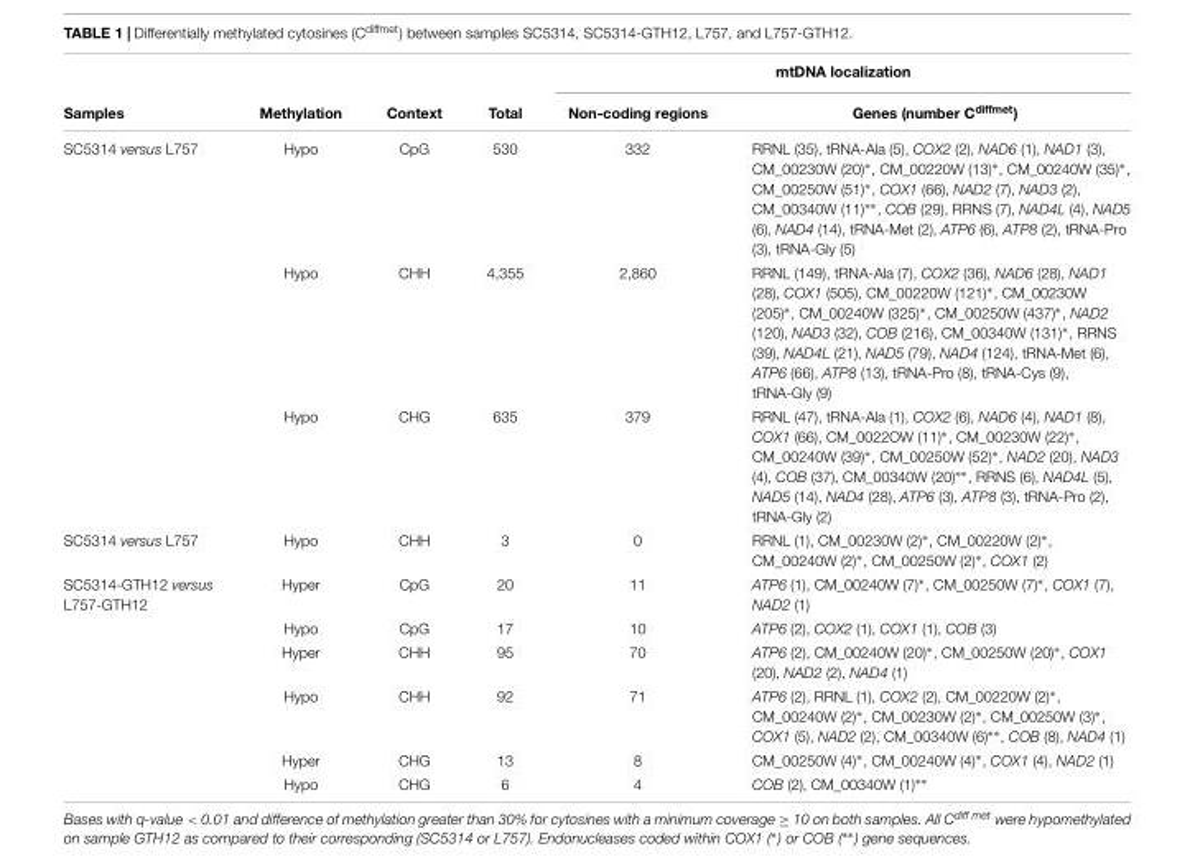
<table><thead><tr><td rowspan="2">Samples</td><td rowspan="2">Methylation</td><td rowspan="2">Context</td><td rowspan="2">Total</td><td colspan="2">mtDNA localization</td></tr><tr><td>Non-coding regions</td><td>Genes (number C<sup>diffmet</sup>)</td></tr></thead><tbody><tr><td rowspan="3">SC5314 versus L757</td><td>Hypo</td><td>CpG</td><td>530</td><td>332</td><td>RRNL (35), tRNA-Ala (5), COX2 (2), NAD6 (1), NAD1 (3), CM_00230W (20)∗, CM_00220W (13)∗, CM_00240W (35)∗, CM_00250W (51)∗, COX1 (66), NAD2 (7), NAD3 (2), CM_00340W (11)∗∗, COB (29), RRNS (7), NAD4L (4), NAD5 (6), NAD4 (14), tRNA-Met (2), ATP6 (6), ATP8 (2), tRNA-Pro (3), tRNA-Gly (5)</td></tr><tr><td>Hypo</td><td>CHH</td><td>4,355</td><td>2,860</td><td>RRNL (149), tRNA-Ala (7), COX2 (36), NAD6 (28), NAD1 (28), COX1 (505), CM_00220W (121)∗, CM_00230W (205)∗, CM_00240W (325)∗, CM_00250W (437)∗, NAD2 (120), NAD3 (32), COB (216), CM_00340W (131)∗, RRNS (39), NAD4L (21), NAD5 (79), NAD4 (124), tRNA-Met (6), ATP6 (66), ATP8 (13), tRNA-Pro (8), tRNA-Cys (9), tRNA-Gly (9)</td></tr><tr><td>Hypo</td><td>CHG</td><td>635</td><td>379</td><td>RRNL (47), tRNA-Ala (1), COX2 (6), NAD6 (4), NAD1 (8), COX1 (66), CM_0022OW (11)∗, CM_00230W (22)∗, CM_00240W (39)∗, CM_00250W (52)∗, NAD2 (20), NAD3 (4), COB (37), CM_00340W (20)∗∗, RRNS (6), NAD4L (5), NAD5 (14), NAD4 (28), ATP6 (3), ATP8 (3), tRNA-Pro (2), tRNA-Gly (2)</td></tr><tr><td>SC5314 versus L757</td><td>Hypo</td><td>CHH</td><td>3</td><td>0</td><td>RRNL (1), CM_00230W (2)∗, CM_00220W (2)∗, CM_00240W (2)∗, CM_00250W (2)∗, COX1 (2)</td></tr><tr><td rowspan="6">SC5314-GTH12 versus L757-GTH12</td><td>Hyper</td><td>CpG</td><td>20</td><td>11</td><td>ATP6 (1), CM_00240W (7)∗, CM_00250W (7)∗, COX1 (7), NAD2 (1)</td></tr><tr><td>Hypo</td><td>CpG</td><td>17</td><td>10</td><td>ATP6 (2), COX2 (1), COX1 (1), COB (3)</td></tr><tr><td>Hyper</td><td>CHH</td><td>95</td><td>70</td><td>ATP6 (2), CM_00240W (20)∗, CM_00250W (20)∗, COX1 (20), NAD2 (2), NAD4 (1)</td></tr><tr><td>Hypo</td><td>CHH</td><td>92</td><td>71</td><td>ATP6 (2), RRNL (1), COX2 (2), CM_00220W (2)∗, CM_00240W (2)∗, CM_00230W (2)∗, CM_00250W (3)∗, COX1 (5), NAD2 (2), CM_00340W (6)∗∗, COB (8), NAD4 (1)</td></tr><tr><td>Hyper</td><td>CHG</td><td>13</td><td>8</td><td>CM_00250W (4)∗, CM_00240W (4)∗, COX1 (4), NAD2 (1)</td></tr><tr><td>Hypo</td><td>CHG</td><td>6</td><td>4</td><td>COB (2), CM_00340W (1)∗∗</td></tr></tbody></table>